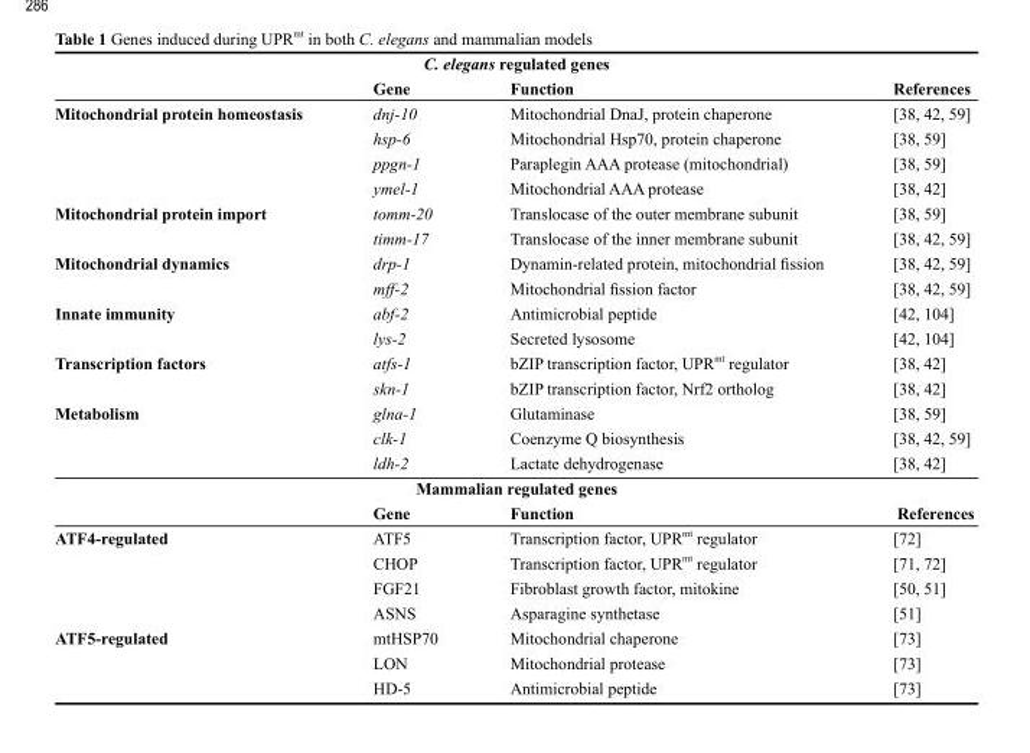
<table><tbody><tr><td colspan="4">C. elegans regulated genes</td></tr><tr><td></td><td>Gene</td><td>Function</td><td>References</td></tr><tr><td rowspan="4">Mitochondrial protein homeostasis</td><td>dnj-10</td><td>Mitochondrial DnaJ, protein chaperone</td><td>[38, 42, 59]</td></tr><tr><td>hsp-6</td><td>Mitochondrial Hsp70, protein chaperone</td><td>[38, 59]</td></tr><tr><td>ppgn-1</td><td>Paraplegin AAA protease (mitochondrial)</td><td>[38, 59]</td></tr><tr><td>ymel-1</td><td>Mitochondrial AAA protease</td><td>[38, 42]</td></tr><tr><td rowspan="2">Mitochondrial protein import</td><td>tomm-20</td><td>Translocase of the outer membrane subunit</td><td>[38, 59]</td></tr><tr><td>timm-17</td><td>Translocase of the inner membrane subunit</td><td>[38, 42, 59]</td></tr><tr><td rowspan="2">Mitochondrial dynamics</td><td>drp-1</td><td>Dynamin-related protein, mitochondrial fission</td><td>[38, 42, 59]</td></tr><tr><td>mff-2</td><td>Mitochondrial fission factor</td><td>[38, 42, 59]</td></tr><tr><td rowspan="2">Innate immunity</td><td>abf-2</td><td>Antimicrobial peptide</td><td>[42, 104]</td></tr><tr><td>lys-2</td><td>Secreted lysosome</td><td>[42, 104]</td></tr><tr><td rowspan="2">Transcription factors</td><td>atfs-1</td><td>bZIP transcription factor, UPR <sup>mt</sup> regulator</td><td>[38, 42]</td></tr><tr><td>skn-1</td><td>bZIP transcription factor, Nrf2 ortholog</td><td>[38, 42]</td></tr><tr><td rowspan="3">Metabolism</td><td>glna-1</td><td>Glutaminase</td><td>[38, 59]</td></tr><tr><td>clk-1</td><td>Coenzyme Q biosynthesis</td><td>[38, 42, 59]</td></tr><tr><td>ldh-2</td><td>Lactate dehydrogenase</td><td>[38, 42]</td></tr><tr><td colspan="4">Mammalian regulated genes</td></tr><tr><td></td><td>Gene</td><td>Function</td><td>References</td></tr><tr><td rowspan="4">ATF4-regulated</td><td>ATF5</td><td>Transcription factor, UPR <sup>mt</sup> regulator</td><td>[72]</td></tr><tr><td>CHOP</td><td>Transcription factor, UPR <sup>mt</sup> regulator</td><td>[71, 72]</td></tr><tr><td>FGF21</td><td>Fibroblast growth factor, mitokine</td><td>[50, 51]</td></tr><tr><td>ASNS</td><td>Asparagine synthetase</td><td>[51]</td></tr><tr><td rowspan="3">ATF5-regulated</td><td>mtHSP70</td><td>Mitochondrial chaperone</td><td>[73]</td></tr><tr><td>LON</td><td>Mitochondrial protease</td><td>[73]</td></tr><tr><td>HD-5</td><td>Antimicrobial peptide</td><td>[73]</td></tr></tbody></table>